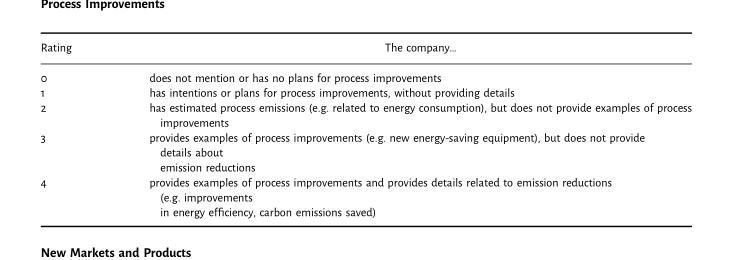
<table><thead><tr><td>Rating</td><td>The company…</td></tr></thead><tbody><tr><td>0</td><td>does not mention or has no plans for process improvements</td></tr><tr><td>1</td><td>has intentions or plans for process improvements, without providing details</td></tr><tr><td>2</td><td>has estimated process emissions (e.g. related to energy consumption), but does not provide examples of process improvements</td></tr><tr><td>3</td><td>provides examples of process improvements (e.g. new energy-saving equipment), but does not provide details about emission reductions</td></tr><tr><td>4</td><td>provides examples of process improvements and provides details related to emission reductions (e.g. improvements in energy efficiency, carbon emissions saved)</td></tr></tbody></table>